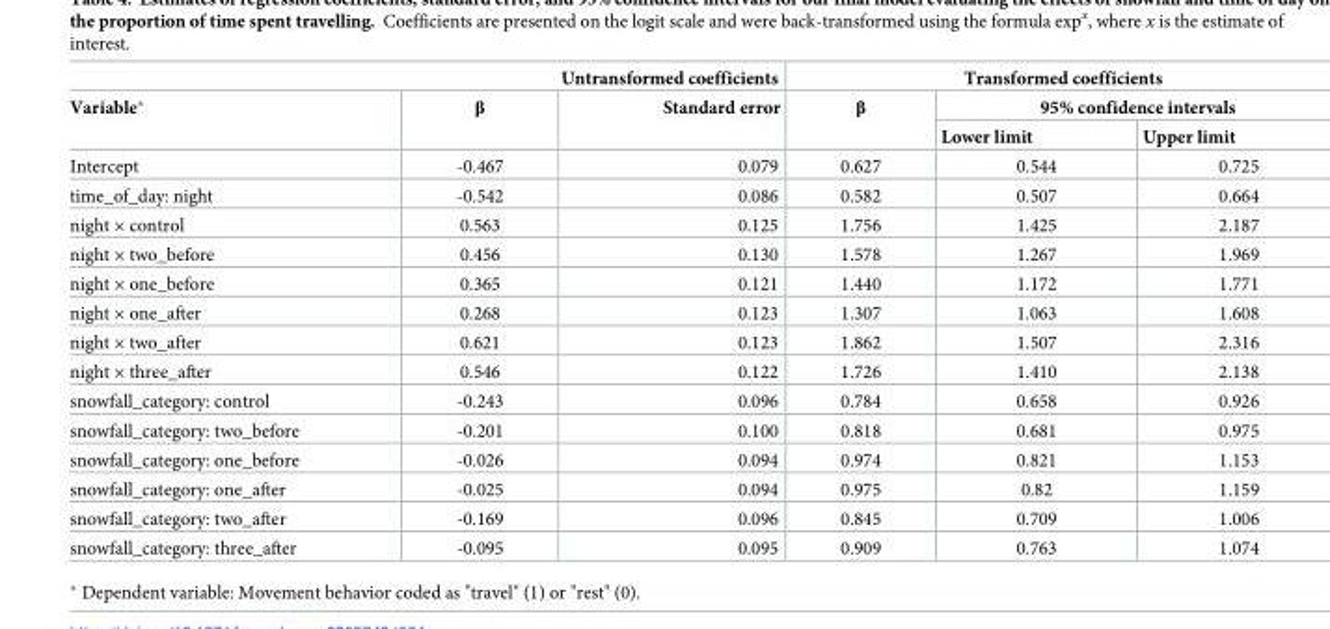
<table><thead><tr><td colspan="3">Untransformed coefficients</td><td colspan="3">Transformed coefficients</td></tr><tr><td rowspan="2">Variable*</td><td rowspan="2">β</td><td rowspan="2">Standard error</td><td rowspan="2">β</td><td colspan="2">95% confidence intervals</td></tr><tr><td>Lower limit</td><td>Upper limit</td></tr></thead><tbody><tr><td>Intercept</td><td>-0.467</td><td>0.079</td><td>0.627</td><td>0.544</td><td>0.725</td></tr><tr><td>time_of_day: night</td><td>-0.542</td><td>0.086</td><td>0.582</td><td>0.507</td><td>0.664</td></tr><tr><td>night × control</td><td>0.563</td><td>0.125</td><td>1.756</td><td>1.425</td><td>2.187</td></tr><tr><td>night × two_before</td><td>0.456</td><td>0.130</td><td>1.578</td><td>1.267</td><td>1.969</td></tr><tr><td>night × one_before</td><td>0.365</td><td>0.121</td><td>1.440</td><td>1.172</td><td>1.771</td></tr><tr><td>night × one_after</td><td>0.268</td><td>0.123</td><td>1.307</td><td>1.063</td><td>1.608</td></tr><tr><td>night × two_after</td><td>0.621</td><td>0.123</td><td>1.862</td><td>1.507</td><td>2.316</td></tr><tr><td>night × three_after</td><td>0.546</td><td>0.122</td><td>1.726</td><td>1.410</td><td>2.138</td></tr><tr><td>snowfall_category: control</td><td>-0.243</td><td>0.096</td><td>0.784</td><td>0.658</td><td>0.926</td></tr><tr><td>snowfall_category: two_before</td><td>-0.201</td><td>0.100</td><td>0.818</td><td>0.681</td><td>0.975</td></tr><tr><td>snowfall_category: one_before</td><td>-0.026</td><td>0.094</td><td>0.974</td><td>0.821</td><td>1.153</td></tr><tr><td>snowfall_category: one_after</td><td>-0.025</td><td>0.094</td><td>0.975</td><td>0.82</td><td>1.159</td></tr><tr><td>snowfall_category: two_after</td><td>-0.169</td><td>0.096</td><td>0.845</td><td>0.709</td><td>1.006</td></tr><tr><td>snowfall_category: three_after</td><td>-0.095</td><td>0.095</td><td>0.909</td><td>0.763</td><td>1.074</td></tr></tbody></table>